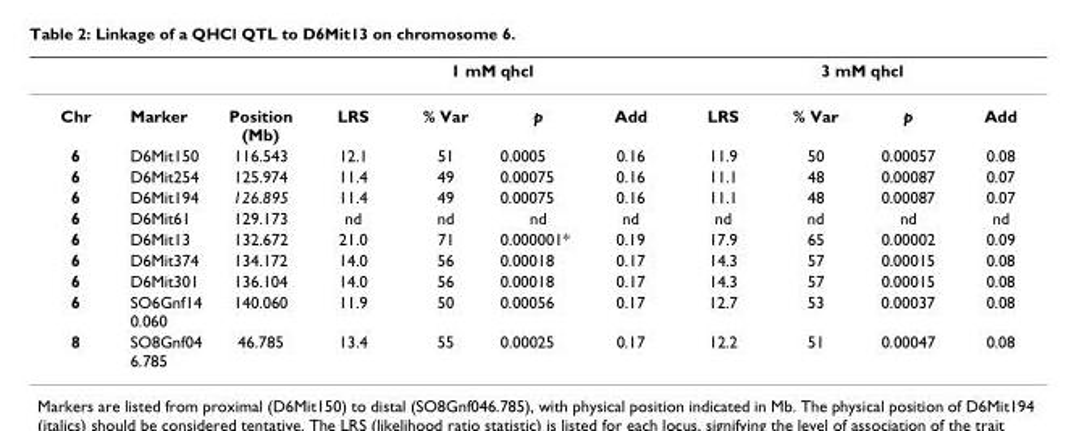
<table><thead><tr><td rowspan="2">Chr</td><td rowspan="2">Marker</td><td rowspan="2">Position (Mb)</td><td colspan="4">1 mM qhcl</td><td colspan="4">3 mM qhcl</td></tr><tr><td>LRS</td><td>% Var</td><td>p</td><td>Add</td><td>LRS</td><td>% Var</td><td>p</td><td>Add</td></tr></thead><tbody><tr><td>6</td><td>D6Mit150</td><td>116.543</td><td>12.1</td><td>51</td><td>0.0005</td><td>0.16</td><td>11.9</td><td>50</td><td>0.00057</td><td>0.08</td></tr><tr><td>6</td><td>D6Mit254</td><td>125.974</td><td>11.4</td><td>49</td><td>0.00075</td><td>0.16</td><td>11.1</td><td>48</td><td>0.00087</td><td>0.07</td></tr><tr><td>6</td><td>D6Mit194</td><td>126.895</td><td>11.4</td><td>49</td><td>0.00075</td><td>0.16</td><td>11.1</td><td>48</td><td>0.00087</td><td>0.07</td></tr><tr><td>6</td><td>D6Mit61</td><td>129.173</td><td>nd</td><td>nd</td><td>nd</td><td>nd</td><td>nd</td><td>nd</td><td>nd</td><td>nd</td></tr><tr><td>6</td><td>D6Mit13</td><td>132.672</td><td>21.0</td><td>71</td><td>0.000001*</td><td>0.19</td><td>17.9</td><td>65</td><td>0.00002</td><td>0.09</td></tr><tr><td>6</td><td>D6Mit374</td><td>134.172</td><td>14.0</td><td>56</td><td>0.00018</td><td>0.17</td><td>14.3</td><td>57</td><td>0.00015</td><td>0.08</td></tr><tr><td>6</td><td>D6Mit301</td><td>136.104</td><td>14.0</td><td>56</td><td>0.00018</td><td>0.17</td><td>14.3</td><td>57</td><td>0.00015</td><td>0.08</td></tr><tr><td>6</td><td>SO6Gnf14 0.060</td><td>140.060</td><td>11.9</td><td>50</td><td>0.00056</td><td>0.17</td><td>12.7</td><td>53</td><td>0.00037</td><td>0.08</td></tr><tr><td>8</td><td>SO8Gnf04 6.785</td><td>46.785</td><td>13.4</td><td>55</td><td>0.00025</td><td>0.17</td><td>12.2</td><td>51</td><td>0.00047</td><td>0.08</td></tr></tbody></table>